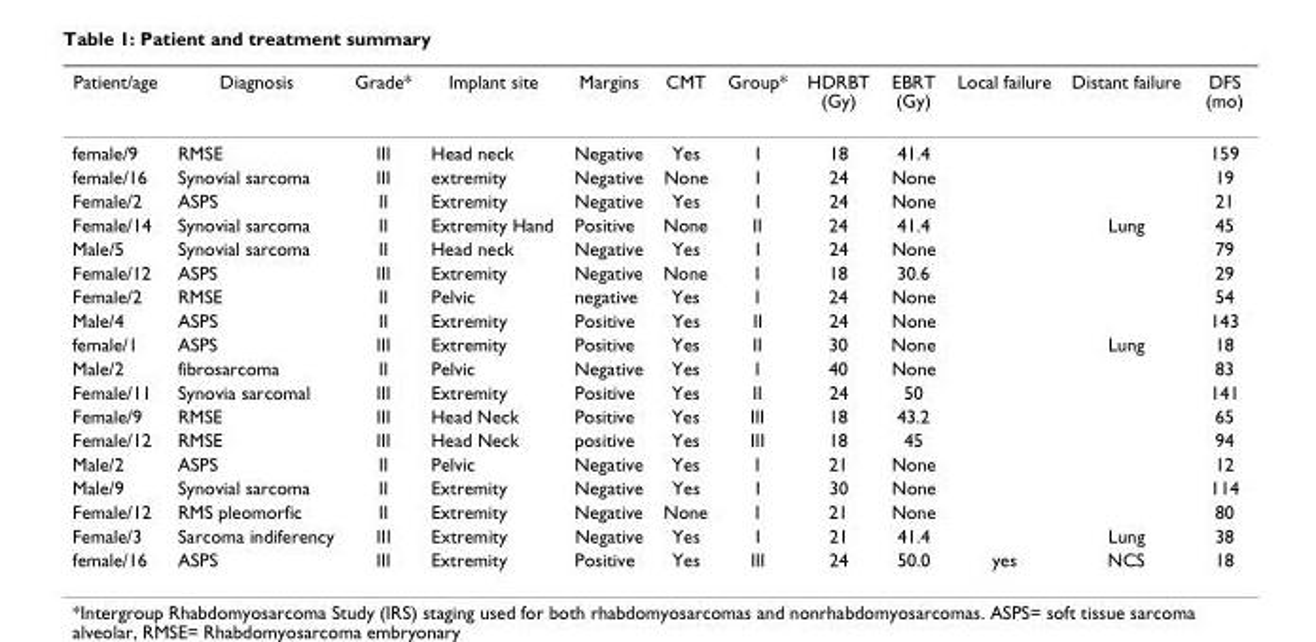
<table><thead><tr><td>Patient/age</td><td>Diagnosis</td><td>Grade*</td><td>Implant site</td><td>Margins</td><td>CMT</td><td>Group*</td><td>HDRBT (Gy)</td><td>EBRT (Gy)</td><td>Local failure</td><td>Distant failure</td><td>DFS (mo)</td></tr></thead><tbody><tr><td>female/9</td><td>RMSE</td><td>III</td><td>Head neck</td><td>Negative</td><td>Yes</td><td>I</td><td>18</td><td>41.4</td><td></td><td></td><td>159</td></tr><tr><td>female/16</td><td>Synovial sarcoma</td><td>III</td><td>extremity</td><td>Negative</td><td>None</td><td>I</td><td>24</td><td>None</td><td></td><td></td><td>19</td></tr><tr><td>Female/2</td><td>ASPS</td><td>II</td><td>Extremity</td><td>Negative</td><td>Yes</td><td>I</td><td>24</td><td>None</td><td></td><td></td><td>21</td></tr><tr><td>Female/14</td><td>Synovial sarcoma</td><td>II</td><td>Extremity Hand</td><td>Positive</td><td>None</td><td>II</td><td>24</td><td>41.4</td><td></td><td>Lung</td><td>45</td></tr><tr><td>Male/5</td><td>Synovial sarcoma</td><td>II</td><td>Head neck</td><td>Negative</td><td>Yes</td><td>I</td><td>24</td><td>None</td><td></td><td></td><td>79</td></tr><tr><td>Female/12</td><td>ASPS</td><td>III</td><td>Extremity</td><td>Negative</td><td>None</td><td>I</td><td>18</td><td>30.6</td><td></td><td></td><td>29</td></tr><tr><td>Female/2</td><td>RMSE</td><td>II</td><td>Pelvic</td><td>negative</td><td>Yes</td><td>I</td><td>24</td><td>None</td><td></td><td></td><td>54</td></tr><tr><td>Male/4</td><td>ASPS</td><td>II</td><td>Extremity</td><td>Positive</td><td>Yes</td><td>II</td><td>24</td><td>None</td><td></td><td></td><td>143</td></tr><tr><td>female/1</td><td>ASPS</td><td>III</td><td>Extremity</td><td>Positive</td><td>Yes</td><td>II</td><td>30</td><td>None</td><td></td><td>Lung</td><td>18</td></tr><tr><td>Male/2</td><td>fibrosarcoma</td><td>II</td><td>Pelvic</td><td>Negative</td><td>Yes</td><td>I</td><td>40</td><td>None</td><td></td><td></td><td>83</td></tr><tr><td>Female/11</td><td>Synovia sarcomal</td><td>III</td><td>Extremity</td><td>Positive</td><td>Yes</td><td>II</td><td>24</td><td>50</td><td></td><td></td><td>141</td></tr><tr><td>Female/9</td><td>RMSE</td><td>III</td><td>Head Neck</td><td>Positive</td><td>Yes</td><td>III</td><td>18</td><td>43.2</td><td></td><td></td><td>65</td></tr><tr><td>Female/12</td><td>RMSE</td><td>III</td><td>Head Neck</td><td>positive</td><td>Yes</td><td>III</td><td>18</td><td>45</td><td></td><td></td><td>94</td></tr><tr><td>Male/2</td><td>ASPS</td><td>II</td><td>Pelvic</td><td>Negative</td><td>Yes</td><td>I</td><td>21</td><td>None</td><td></td><td></td><td>12</td></tr><tr><td>Male/9</td><td>Synovial sarcoma</td><td>II</td><td>Extremity</td><td>Negative</td><td>Yes</td><td>I</td><td>30</td><td>None</td><td></td><td></td><td>114</td></tr><tr><td>Female/12</td><td>RMS pleomorfic</td><td>II</td><td>Extremity</td><td>Negative</td><td>None</td><td>I</td><td>21</td><td>None</td><td></td><td></td><td>80</td></tr><tr><td>Female/3</td><td>Sarcoma indiferency</td><td>III</td><td>Extremity</td><td>Negative</td><td>Yes</td><td>I</td><td>21</td><td>41.4</td><td></td><td>Lung</td><td>38</td></tr><tr><td>female/16</td><td>ASPS</td><td>III</td><td>Extremity</td><td>Positive</td><td>Yes</td><td>III</td><td>24</td><td>50.0</td><td>yes</td><td>NCS</td><td>18</td></tr></tbody></table>